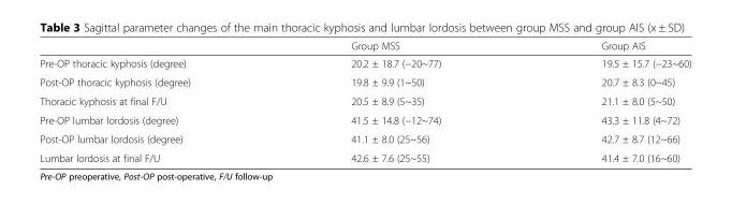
<table><thead><tr><td></td><td>Group MSS</td><td>Group AIS</td></tr></thead><tbody><tr><td>Pre-OP thoracic kyphosis (degree)</td><td>20.2 ± 18.7 (−20~77)</td><td>19.5 ± 15.7 (−23~60)</td></tr><tr><td>Post-OP thoracic kyphosis (degree)</td><td>19.8 ± 9.9 (1~50)</td><td>20.7 ± 8.3 (0~45)</td></tr><tr><td>Thoracic kyphosis at final F/U</td><td>20.5 ± 8.9 (5~35)</td><td>21.1 ± 8.0 (5~50)</td></tr><tr><td>Pre-OP lumbar lordosis (degree)</td><td>41.5 ± 14.8 (−12~74)</td><td>43.3 ± 11.8 (4~72)</td></tr><tr><td>Post-OP lumbar lordosis (degree)</td><td>41.1 ± 8.0 (25~56)</td><td>42.7 ± 8.7 (12~66)</td></tr><tr><td>Lumbar lordosis at final F/U</td><td>42.6 ± 7.6 (25~55)</td><td>41.4 ± 7.0 (16~60)</td></tr></tbody></table>